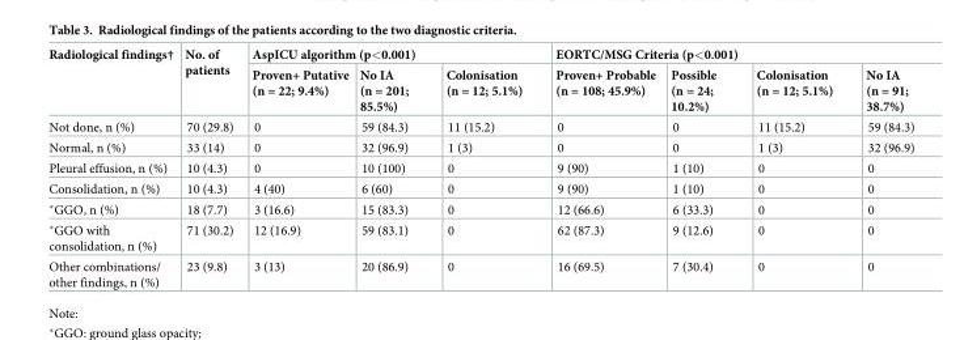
<table><thead><tr><td rowspan="2">Radiological findings†</td><td rowspan="2">No. of patients</td><td colspan="3">AspICU algorithm (p&lt;0.001)</td><td colspan="4">EORTC/MSG Criteria (p&lt;0.001)</td></tr><tr><td>Proven+ Putative (n = 22; 9.4%)</td><td>No IA (n = 201; 85.5%)</td><td>Colonisation (n = 12; 5.1%)</td><td>Proven+ Probable (n = 108; 45.9%)</td><td>Possible (n = 24; 10.2%)</td><td>Colonisation (n = 12; 5.1%)</td><td>No IA (n = 91; 38.7%)</td></tr></thead><tbody><tr><td>Not done, n (%)</td><td>70 (29.8)</td><td>0</td><td>59 (84.3)</td><td>11 (15.2)</td><td>0</td><td>0</td><td>11 (15.2)</td><td>59 (84.3)</td></tr><tr><td>Normal, n (%)</td><td>33 (14)</td><td>0</td><td>32 (96.9)</td><td>1 (3)</td><td>0</td><td>0</td><td>1 (3)</td><td>32 (96.9)</td></tr><tr><td>Pleural effusion, n (%)</td><td>10 (4.3)</td><td>0</td><td>10 (100)</td><td>0</td><td>9 (90)</td><td>1 (10)</td><td>0</td><td>0</td></tr><tr><td>Consolidation, n (%)</td><td>10 (4.3)</td><td>4 (40)</td><td>6 (60)</td><td>0</td><td>9 (90)</td><td>1 (10)</td><td>0</td><td>0</td></tr><tr><td>*GGO, n (%)</td><td>18 (7.7)</td><td>3 (16.6)</td><td>15 (83.3)</td><td>0</td><td>12 (66.6)</td><td>6 (33.3)</td><td>0</td><td>0</td></tr><tr><td>*GGO with consolidation, n (%)</td><td>71 (30.2)</td><td>12 (16.9)</td><td>59 (83.1)</td><td>0</td><td>62 (87.3)</td><td>9 (12.6)</td><td>0</td><td>0</td></tr><tr><td>Other combinations/ other findings, n (%)</td><td>23 (9.8)</td><td>3 (13)</td><td>20 (86.9)</td><td>0</td><td>16 (69.5)</td><td>7 (30.4)</td><td>0</td><td>0</td></tr></tbody></table>